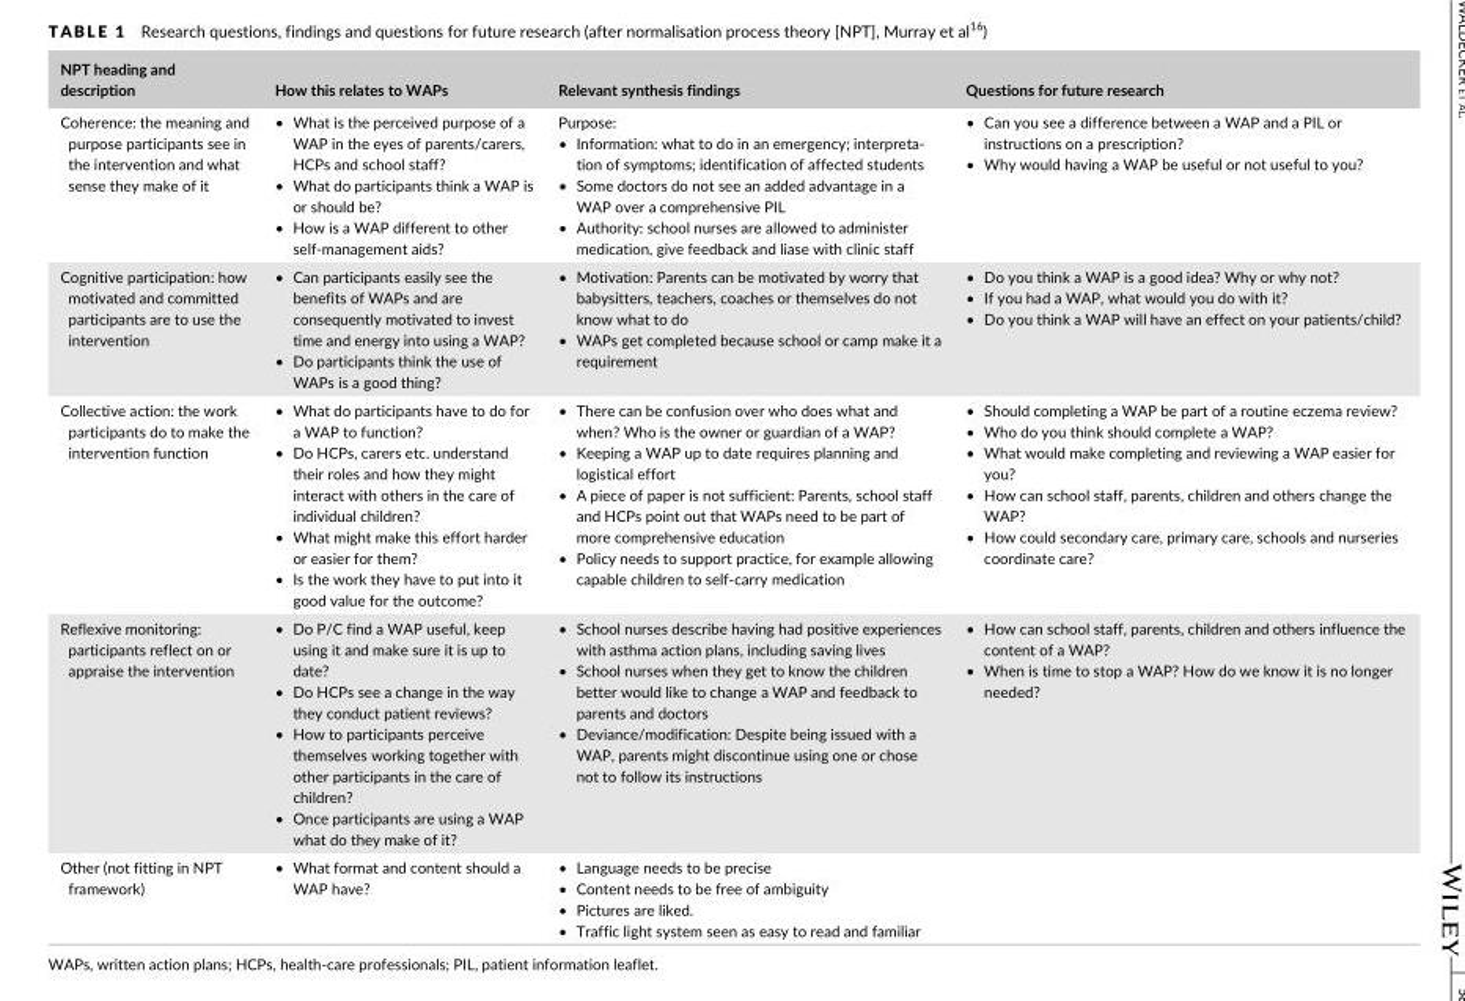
<table><thead><tr><td>NPT heading and description</td><td>How this relates to WAPs</td><td>Relevant synthesis findings</td><td>Questions for future research</td></tr></thead><tbody><tr><td>Coherence: the meaning and purpose participants see in the intervention and what sense they make of it</td><td>• What is the perceived purpose of a WAP in the eyes of parents/carers, HCPs and school staff? • What do participants think a WAP is or should be? • How is a WAP different to other self-management aids?</td><td>Purpose: • Information: what to do in an emergency; interpreta- tion of symptoms; identification of affected students • Some doctors do not see an added advantage in a WAP over a comprehensive PIL • Authority: school nurses are allowed to administer medication, give feedback and liase with clinic staff</td><td>• Can you see a difference between a WAP and a PIL or instructions on a prescription? • Why would having a WAP be useful or not useful to you?</td></tr><tr><td>Cognitive participation: how motivated and committed participants are to use the intervention</td><td>• Can participants easily see the benefits of WAPs and are consequently motivated to invest time and energy into using a WAP? • Do participants think the use of WAPs is a good thing?</td><td>• Motivation: Parents can be motivated by worry that babysitters, teachers, coaches or themselves do not know what to do • WAPs get completed because school or camp make it a requirement</td><td>• Do you think a WAP is a good idea? Why or why not? • If you had a WAP, what would you do with it? • Do you think a WAP will have an effect on your patients/child?</td></tr><tr><td>Collective action: the work participants do to make the intervention function</td><td>• What do participants have to do for a WAP to function? • Do HCPs, carers etc. understand their roles and how they might interact with others in the care of individual children? • What might make this effort harder or easier for them? • Is the work they have to put into it good value for the outcome?</td><td>• There can be confusion over who does what and when? Who is the owner or guardian of a WAP? • Keeping a WAP up to date requires planning and logistical effort • A piece of paper is not sufficient: Parents, school staff and HCPs point out that WAPs need to be part of more comprehensive education • Policy needs to support practice, for example allowing capable children to self-carry medication</td><td>• Should completing a WAP be part of a routine eczema review? • Who do you think should complete a WAP? • What would make completing and reviewing a WAP easier for you? • How can school staff, parents, children and others change the WAP? • How could secondary care, primary care, schools and nurseries coordinate care?</td></tr><tr><td>Reflexive monitoring: participants reflect on or appraise the intervention</td><td>• Do P/C find a WAP useful, keep using it and make sure it is up to date? • Do HCPs see a change in the way they conduct patient reviews? • How to participants perceive themselves working together with other participants in the care of children? • Once participants are using a WAP what do they make of it?</td><td>• School nurses describe having had positive experiences with asthma action plans, including saving lives • School nurses when they get to know the children better would like to change a WAP and feedback to parents and doctors • Deviance/modification: Despite being issued with a WAP, parents might discontinue using one or chose not to follow its instructions</td><td>• How can school staff, parents, children and others influence the content of a WAP? • When is time to stop a WAP? How do we know it is no longer needed?</td></tr><tr><td>Other (not fitting in NPT framework)</td><td>• What format and content should a WAP have?</td><td>• Language needs to be precise • Content needs to be free of ambiguity • Pictures are liked. • Traffic light system seen as easy to read and familiar</td><td></td></tr></tbody></table>